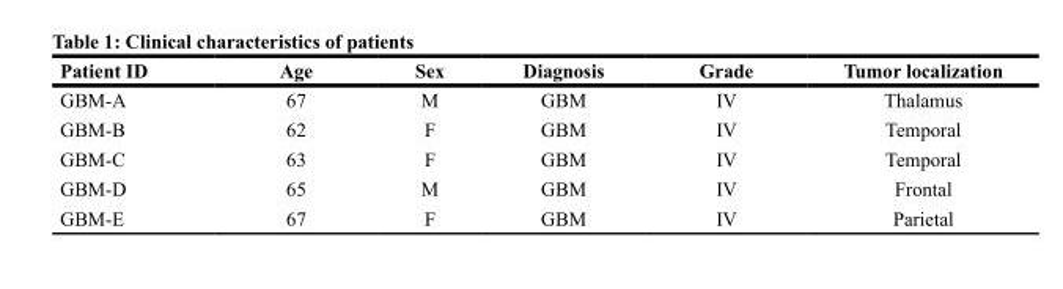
<table><thead><tr><td>Patient ID</td><td>Age</td><td>Sex</td><td>Diagnosis</td><td>Grade</td><td>Tumor localization</td></tr></thead><tbody><tr><td>GBM-A</td><td>67</td><td>M</td><td>GBM</td><td>IV</td><td>Thalamus</td></tr><tr><td>GBM-B</td><td>62</td><td>F</td><td>GBM</td><td>IV</td><td>Temporal</td></tr><tr><td>GBM-C</td><td>63</td><td>F</td><td>GBM</td><td>IV</td><td>Temporal</td></tr><tr><td>GBM-D</td><td>65</td><td>M</td><td>GBM</td><td>IV</td><td>Frontal</td></tr><tr><td>GBM-E</td><td>67</td><td>F</td><td>GBM</td><td>IV</td><td>Parietal</td></tr></tbody></table>